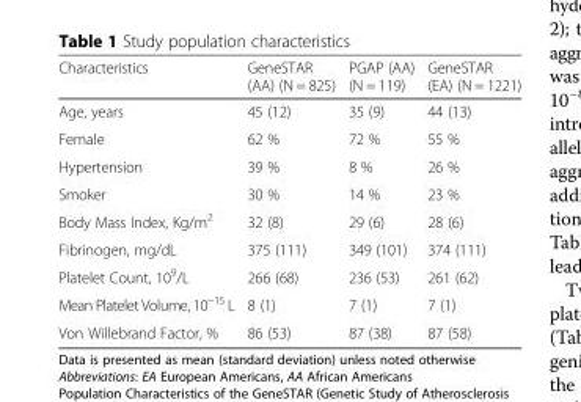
<table><thead><tr><td>Characteristics</td><td>GeneSTAR (AA) (N = 825)</td><td>PGAP (AA) (N = 119)</td><td>GeneSTAR (EA) (N = 1221)</td></tr></thead><tbody><tr><td>Age, years</td><td>45 (12)</td><td>35 (9)</td><td>44 (13)</td></tr><tr><td>Female</td><td>62 %</td><td>72 %</td><td>55 %</td></tr><tr><td>Hypertension</td><td>39 %</td><td>8 %</td><td>26 %</td></tr><tr><td>Smoker</td><td>30 %</td><td>14 %</td><td>23 %</td></tr><tr><td>Body Mass Index, Kg/m<sup>2</sup></td><td>32 (8)</td><td>29 (6)</td><td>28 (6)</td></tr><tr><td>Fibrinogen, mg/dL</td><td>375 (111)</td><td>349 (101)</td><td>374 (111)</td></tr><tr><td>Platelet Count, 10<sup>9</sup>/L</td><td>266 (68)</td><td>236 (53)</td><td>261 (62)</td></tr><tr><td>Mean Platelet Volume, 10<sup>−15</sup> L</td><td>8 (1)</td><td>7 (1)</td><td>7 (1)</td></tr><tr><td>Von Willebrand Factor, %</td><td>86 (53)</td><td>87 (38)</td><td>87 (58)</td></tr></tbody></table>